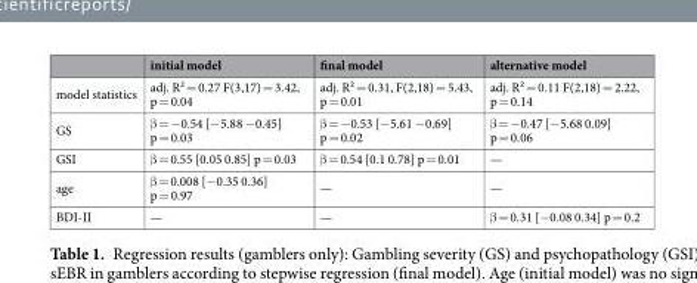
<table><thead><tr><td></td><td>initial model</td><td>final model</td><td>alternative model</td></tr></thead><tbody><tr><td>model statistics</td><td>adj. R² = 0.27 F(3,17) = 3.42, p = 0.04</td><td>adj. R² = 0.31, F(2,18) = 5.43, p = 0.01</td><td>adj. R² = 0.11 F(2,18) = 2.22, p = 0.14</td></tr><tr><td>GS</td><td>β = −0.54 [−5.88 −0.45] p = 0.03</td><td>β = −0.53 [−5.61 −0.69] p = 0.02</td><td>β = −0.47 [−5.68 0.09] p = 0.06</td></tr><tr><td>GSI</td><td>β = 0.55 [0.05 0.85] p = 0.03</td><td>β = 0.54 [0.1 0.78] p = 0.01</td><td>—</td></tr><tr><td>age</td><td>β = 0.008 [−0.35 0.36] p = 0.97</td><td>—</td><td>—</td></tr><tr><td>BDI-II</td><td>—</td><td>—</td><td>β = 0.31 [−0.08 0.34] p = 0.2</td></tr></tbody></table>